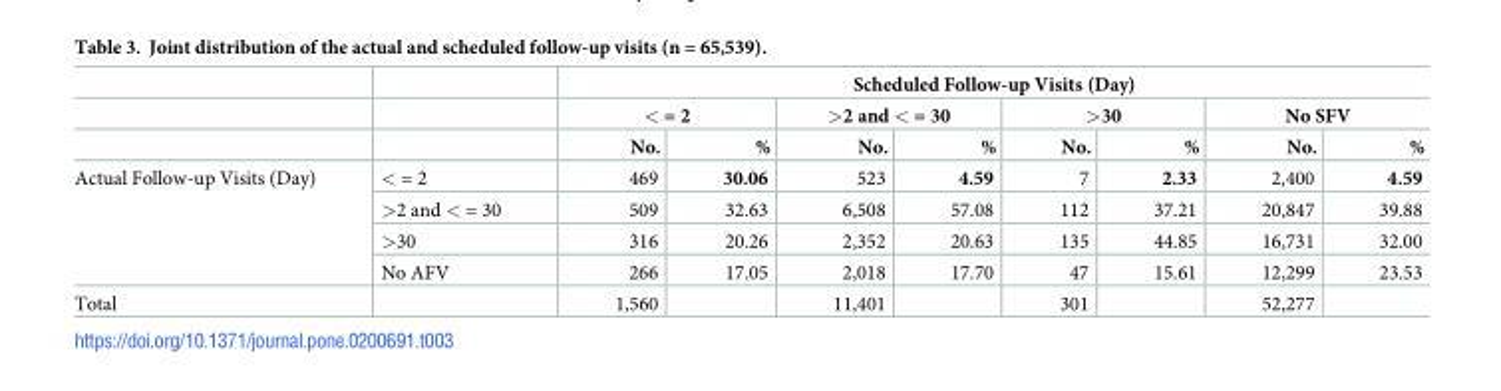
<table><thead><tr><td rowspan="3"></td><td rowspan="3"></td><td colspan="8">Scheduled Follow-up Visits (Day)</td></tr><tr><td colspan="2">&lt; = 2</td><td colspan="2">&gt;2 and &lt; = 30</td><td colspan="2">&gt;30</td><td colspan="2">No SFV</td></tr><tr><td>No.</td><td>%</td><td>No.</td><td>%</td><td>No.</td><td>%</td><td>No.</td><td>%</td></tr></thead><tbody><tr><td rowspan="4">Actual Follow-up Visits (Day)</td><td>&lt; = 2</td><td>469</td><td>30.06</td><td>523</td><td>4.59</td><td>7</td><td>2.33</td><td>2,400</td><td>4.59</td></tr><tr><td>&gt;2 and &lt; = 30</td><td>509</td><td>32.63</td><td>6,508</td><td>57.08</td><td>112</td><td>37.21</td><td>20,847</td><td>39.88</td></tr><tr><td>&gt;30</td><td>316</td><td>20.26</td><td>2,352</td><td>20.63</td><td>135</td><td>44.85</td><td>16,731</td><td>32.00</td></tr><tr><td>No AFV</td><td>266</td><td>17.05</td><td>2,018</td><td>17.70</td><td>47</td><td>15.61</td><td>12,299</td><td>23.53</td></tr><tr><td>Total</td><td></td><td>1,560</td><td></td><td>11,401</td><td></td><td>301</td><td></td><td>52,277</td><td></td></tr></tbody></table>